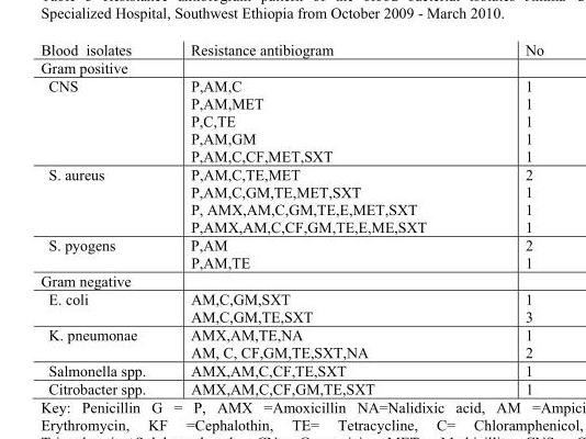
<table><thead><tr><td rowspan="2">Blood isolates Gram positive</td><td rowspan="2">Resistance antibiogram</td><td rowspan="2">No</td></tr><tr></tr></thead><tbody><tr><td>CNS</td><td>P,AM,C P,AM,MET P,C,TE P,AM,GM P,AM,C,CF,MET,SXT</td><td>1 1 1 1 1</td></tr><tr><td>S. aureus</td><td>P,AM,C,TE,MET P,AM,C,GM,TE,MET,SXT P, AMX,AM,C,GM,TE,E,MET,SXT P,AMX,AM,C,CF,GM,TE,E,ME,SXT</td><td>2 1 1 1</td></tr><tr><td>S. pyogens</td><td>P,AM P,AM,TE</td><td>2 1</td></tr><tr><td colspan="3">Gram negative</td></tr><tr><td>E. coli</td><td>AM,C,GM,SXT AM,C,GM,TE,SXT</td><td>1 3</td></tr><tr><td>K. pneumonae</td><td>AMX,AM,TE,NA AM, C, CF,GM,TE,SXT,NA</td><td>1 2</td></tr><tr><td>Salmonella spp.</td><td>AMX,AM,C,CF,TE,SXT</td><td>1</td></tr><tr><td>Citrobacter spp.</td><td>AMX,AM,C,CF,GM,TE,SXT</td><td>1</td></tr></tbody></table>